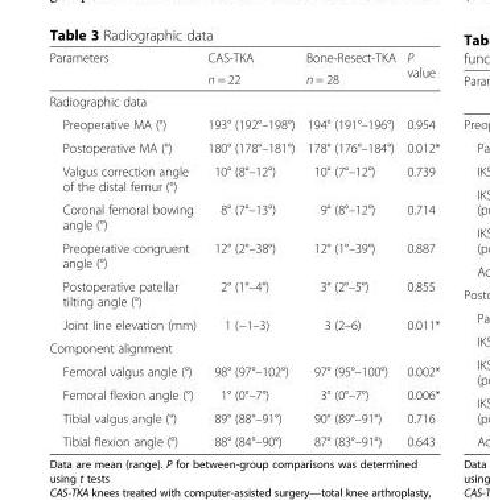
<table><thead><tr><td rowspan="2">Parameters</td><td rowspan="2">CAS-TKA n = 22</td><td rowspan="2">Bone-Resect-TKA n = 28</td><td rowspan="2">P value</td></tr><tr></tr></thead><tbody><tr><td colspan="4">Radiographic data</td></tr><tr><td>Preoperative MA (°)</td><td>193° (192°–198°)</td><td>194° (191°–196°)</td><td>0.954</td></tr><tr><td>Postoperative MA (°)</td><td>180° (178°–181°)</td><td>178° (176°–184°)</td><td>0.012*</td></tr><tr><td>Valgus correction angle of the distal femur (°)</td><td>10° (8°–12°)</td><td>10° (7°–12°)</td><td>0.739</td></tr><tr><td>Coronal femoral bowing angle (°)</td><td>8° (7°–13°)</td><td>9° (8°–12°)</td><td>0.714</td></tr><tr><td>Preoperative congruent angle (°)</td><td>12° (2°–38°)</td><td>12° (1°–39°)</td><td>0.887</td></tr><tr><td>Postoperative patellar tilting angle (°)</td><td>2° (1°–4°)</td><td>3° (2°–5°)</td><td>0.855</td></tr><tr><td>Joint line elevation (mm)</td><td>1 (−1–3)</td><td>3 (2–6)</td><td>0.011*</td></tr><tr><td colspan="4">Component alignment</td></tr><tr><td>Femoral valgus angle (°)</td><td>98° (97°–102°)</td><td>97° (95°–100°)</td><td>0.002*</td></tr><tr><td>Femoral flexion angle (°)</td><td>1° (0°–7°)</td><td>3° (0°–7°)</td><td>0.006*</td></tr><tr><td>Tibial valgus angle (°)</td><td>89° (88°–91°)</td><td>90° (89°–91°)</td><td>0.716</td></tr><tr><td>Tibial flexion angle (°)</td><td>88° (84°–90°)</td><td>87° (83°–91°)</td><td>0.643</td></tr></tbody></table>